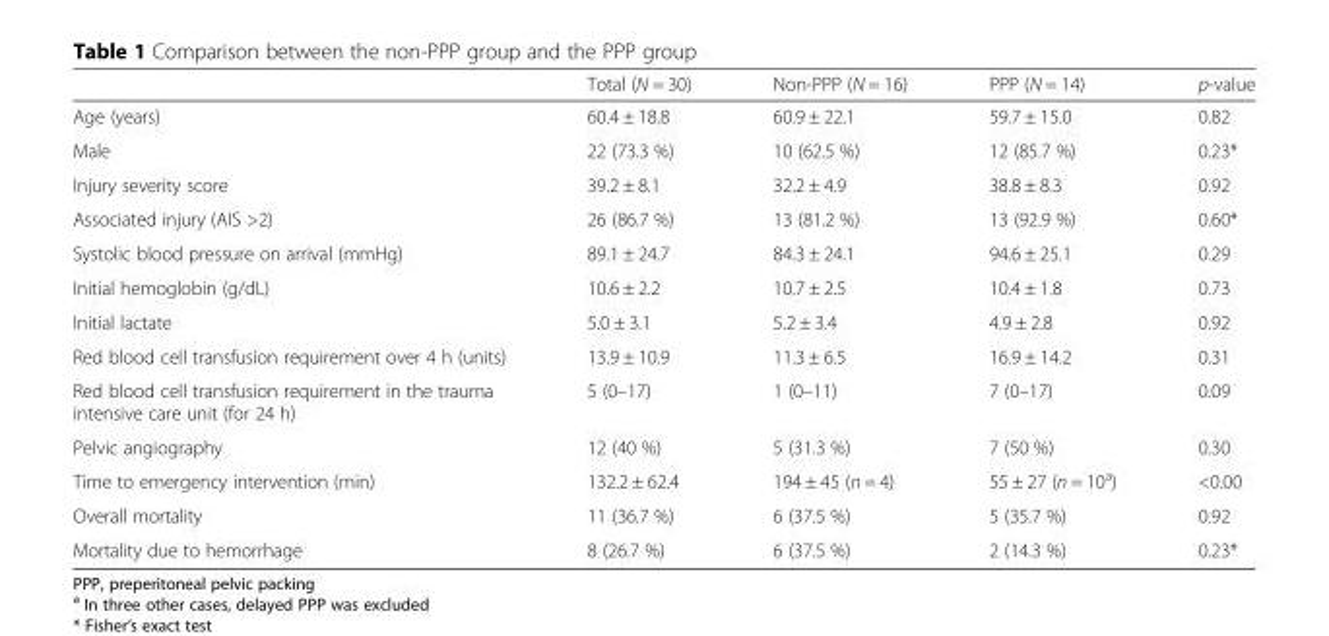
<table><thead><tr><td></td><td>Total (N = 30)</td><td>Non-PPP (N = 16)</td><td>PPP (N = 14)</td><td>p-value</td></tr></thead><tbody><tr><td>Age (years)</td><td>60.4 ± 18.8</td><td>60.9 ± 22.1</td><td>59.7 ± 15.0</td><td>0.82</td></tr><tr><td>Male</td><td>22 (73.3 %)</td><td>10 (62.5 %)</td><td>12 (85.7 %)</td><td>0.23*</td></tr><tr><td>Injury severity score</td><td>39.2 ± 8.1</td><td>32.2 ± 4.9</td><td>38.8 ± 8.3</td><td>0.92</td></tr><tr><td>Associated injury (AIS &gt;2)</td><td>26 (86.7 %)</td><td>13 (81.2 %)</td><td>13 (92.9 %)</td><td>0.60*</td></tr><tr><td>Systolic blood pressure on arrival (mmHg)</td><td>89.1 ± 24.7</td><td>84.3 ± 24.1</td><td>94.6 ± 25.1</td><td>0.29</td></tr><tr><td>Initial hemoglobin (g/dL)</td><td>10.6 ± 2.2</td><td>10.7 ± 2.5</td><td>10.4 ± 1.8</td><td>0.73</td></tr><tr><td>Initial lactate</td><td>5.0 ± 3.1</td><td>5.2 ± 3.4</td><td>4.9 ± 2.8</td><td>0.92</td></tr><tr><td>Red blood cell transfusion requirement over 4 h (units)</td><td>13.9 ± 10.9</td><td>11.3 ± 6.5</td><td>16.9 ± 14.2</td><td>0.31</td></tr><tr><td>Red blood cell transfusion requirement in the trauma intensive care unit (for 24 h)</td><td>5 (0–17)</td><td>1 (0–11)</td><td>7 (0–17)</td><td>0.09</td></tr><tr><td>Pelvic angiography</td><td>12 (40 %)</td><td>5 (31.3 %)</td><td>7 (50 %)</td><td>0.30</td></tr><tr><td>Time to emergency intervention (min)</td><td>132.2 ± 62.4</td><td>194 ± 45 (n = 4)</td><td>55 ± 27 (n = 10<sup>a</sup>)</td><td>&lt;0.00</td></tr><tr><td>Overall mortality</td><td>11 (36.7 %)</td><td>6 (37.5 %)</td><td>5 (35.7 %)</td><td>0.92</td></tr><tr><td>Mortality due to hemorrhage</td><td>8 (26.7 %)</td><td>6 (37.5 %)</td><td>2 (14.3 %)</td><td>0.23*</td></tr></tbody></table>